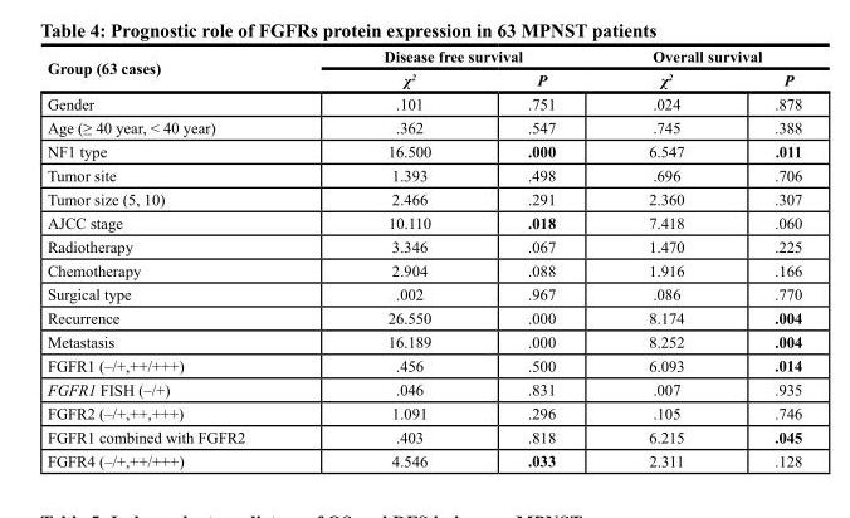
<table><thead><tr><td rowspan="2">Group (63 cases)</td><td colspan="2">Disease free survival</td><td colspan="2">Overall survival</td></tr><tr><td>χ<sup>2</sup></td><td>P</td><td>χ<sup>2</sup></td><td>P</td></tr></thead><tbody><tr><td>Gender</td><td>.101</td><td>.751</td><td>.024</td><td>.878</td></tr><tr><td>Age (≥ 40 year, &lt; 40 year)</td><td>.362</td><td>.547</td><td>.745</td><td>.388</td></tr><tr><td>NF1 type</td><td>16.500</td><td>.000</td><td>6.547</td><td>.011</td></tr><tr><td>Tumor site</td><td>1.393</td><td>.498</td><td>.696</td><td>.706</td></tr><tr><td>Tumor size (5, 10)</td><td>2.466</td><td>.291</td><td>2.360</td><td>.307</td></tr><tr><td>AJCC stage</td><td>10.110</td><td>.018</td><td>7.418</td><td>.060</td></tr><tr><td>Radiotherapy</td><td>3.346</td><td>.067</td><td>1.470</td><td>.225</td></tr><tr><td>Chemotherapy</td><td>2.904</td><td>.088</td><td>1.916</td><td>.166</td></tr><tr><td>Surgical type</td><td>.002</td><td>.967</td><td>.086</td><td>.770</td></tr><tr><td>Recurrence</td><td>26.550</td><td>.000</td><td>8.174</td><td>.004</td></tr><tr><td>Metastasis</td><td>16.189</td><td>.000</td><td>8.252</td><td>.004</td></tr><tr><td>FGFR1 (–/+,++/+++)</td><td>.456</td><td>.500</td><td>6.093</td><td>.014</td></tr><tr><td>FGFR1 FISH (–/+)</td><td>.046</td><td>.831</td><td>.007</td><td>.935</td></tr><tr><td>FGFR2 (–/+,++,+++)</td><td>1.091</td><td>.296</td><td>.105</td><td>.746</td></tr><tr><td>FGFR1 combined with FGFR2</td><td>.403</td><td>.818</td><td>6.215</td><td>.045</td></tr><tr><td>FGFR4 (–/+,++/+++)</td><td>4.546</td><td>.033</td><td>2.311</td><td>.128</td></tr></tbody></table>